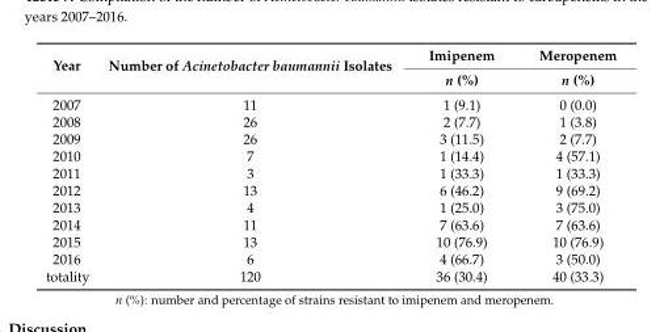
<table><thead><tr><td rowspan="2">Year</td><td rowspan="2">Number of Acinetobacter baumannii Isolates</td><td rowspan="2">Imipenem n (%)</td><td rowspan="2">Meropenem n (%)</td></tr><tr></tr></thead><tbody><tr><td>2007</td><td>11</td><td>1 (9.1)</td><td>0 (0.0)</td></tr><tr><td>2008</td><td>26</td><td>2 (7.7)</td><td>1 (3.8)</td></tr><tr><td>2009</td><td>26</td><td>3 (11.5)</td><td>2 (7.7)</td></tr><tr><td>2010</td><td>7</td><td>1 (14.4)</td><td>4 (57.1)</td></tr><tr><td>2011</td><td>3</td><td>1 (33.3)</td><td>1 (33.3)</td></tr><tr><td>2012</td><td>13</td><td>6 (46.2)</td><td>9 (69.2)</td></tr><tr><td>2013</td><td>4</td><td>1 (25.0)</td><td>3 (75.0)</td></tr><tr><td>2014</td><td>11</td><td>7 (63.6)</td><td>7 (63.6)</td></tr><tr><td>2015</td><td>13</td><td>10 (76.9)</td><td>10 (76.9)</td></tr><tr><td>2016</td><td>6</td><td>4 (66.7)</td><td>3 (50.0)</td></tr><tr><td>totality</td><td>120</td><td>36 (30.4)</td><td>40 (33.3)</td></tr></tbody></table>